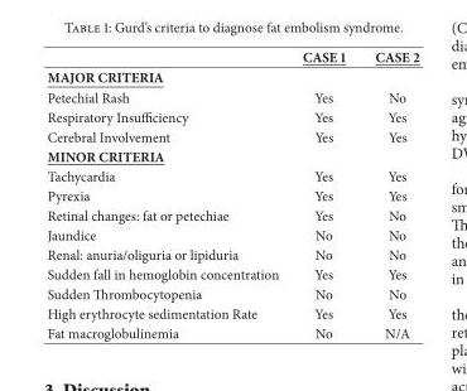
<table><thead><tr><td></td><td>CASE 1</td><td>CASE 2</td></tr></thead><tbody><tr><td colspan="3">MAJOR CRITERIA</td></tr><tr><td>Petechial Rash</td><td>Yes</td><td>No</td></tr><tr><td>Respiratory Insufficiency</td><td>Yes</td><td>Yes</td></tr><tr><td>Cerebral Involvement</td><td>Yes</td><td>Yes</td></tr><tr><td colspan="3">MINOR CRITERIA</td></tr><tr><td>Tachycardia</td><td>Yes</td><td>Yes</td></tr><tr><td>Pyrexia</td><td>Yes</td><td>Yes</td></tr><tr><td>Retinal changes: fat or petechiae</td><td>Yes</td><td>No</td></tr><tr><td>Jaundice</td><td>No</td><td>No</td></tr><tr><td>Renal: anuria/oliguria or lipiduria</td><td>No</td><td>No</td></tr><tr><td>Sudden fall in hemoglobin concentration</td><td>Yes</td><td>Yes</td></tr><tr><td>Sudden Thrombocytopenia</td><td>No</td><td>No</td></tr><tr><td>High erythrocyte sedimentation Rate</td><td>Yes</td><td>Yes</td></tr><tr><td>Fat macroglobulinemia</td><td>No</td><td>N/A</td></tr></tbody></table>